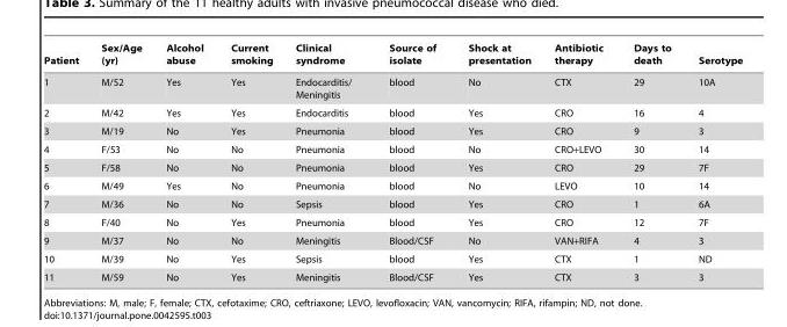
<table><thead><tr><td>Patient</td><td>Sex/Age (yr)</td><td>Alcohol abuse</td><td>Current smoking</td><td>Clinical syndrome</td><td>Source of isolate</td><td>Shock at presentation</td><td>Antibiotic therapy</td><td>Days to death</td><td>Serotype</td></tr></thead><tbody><tr><td>1</td><td>M/52</td><td>Yes</td><td>Yes</td><td>Endocarditis/ Meningitis</td><td>blood</td><td>No</td><td>CTX</td><td>29</td><td>10A</td></tr><tr><td>2</td><td>M/42</td><td>Yes</td><td>Yes</td><td>Endocarditis</td><td>blood</td><td>Yes</td><td>CRO</td><td>16</td><td>4</td></tr><tr><td>3</td><td>M/19</td><td>No</td><td>Yes</td><td>Pneumonia</td><td>blood</td><td>Yes</td><td>CRO</td><td>9</td><td>3</td></tr><tr><td>4</td><td>F/53</td><td>No</td><td>No</td><td>Pneumonia</td><td>blood</td><td>No</td><td>CRO+LEVO</td><td>30</td><td>14</td></tr><tr><td>5</td><td>F/58</td><td>No</td><td>No</td><td>Pneumonia</td><td>blood</td><td>Yes</td><td>CRO</td><td>29</td><td>7F</td></tr><tr><td>6</td><td>M/49</td><td>Yes</td><td>No</td><td>Pneumonia</td><td>blood</td><td>No</td><td>LEVO</td><td>10</td><td>14</td></tr><tr><td>7</td><td>M/36</td><td>No</td><td>No</td><td>Sepsis</td><td>blood</td><td>Yes</td><td>CRO</td><td>1</td><td>6A</td></tr><tr><td>8</td><td>F/40</td><td>No</td><td>Yes</td><td>Pneumonia</td><td>blood</td><td>Yes</td><td>CRO</td><td>12</td><td>7F</td></tr><tr><td>9</td><td>M/37</td><td>No</td><td>No</td><td>Meningitis</td><td>Blood/CSF</td><td>No</td><td>VAN+RIFA</td><td>4</td><td>3</td></tr><tr><td>10</td><td>M/39</td><td>No</td><td>Yes</td><td>Sepsis</td><td>blood</td><td>Yes</td><td>CTX</td><td>1</td><td>ND</td></tr><tr><td>11</td><td>M/59</td><td>No</td><td>Yes</td><td>Meningitis</td><td>Blood/CSF</td><td>Yes</td><td>CTX</td><td>3</td><td>3</td></tr></tbody></table>